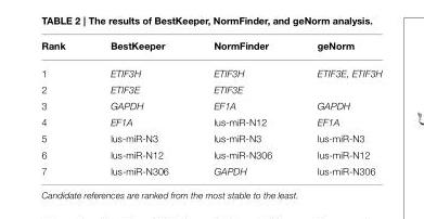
<table><thead><tr><td>Rank</td><td>BestKeeper</td><td>NormFinder</td><td>geNorm</td></tr></thead><tbody><tr><td>1</td><td>ETIF3H</td><td>ETIF3H</td><td>ETIF3E, ETIF3H</td></tr><tr><td>2</td><td>ETIF3E</td><td>ETIF3E</td><td></td></tr><tr><td>3</td><td>GAPDH</td><td>EF1A</td><td>GAPDH</td></tr><tr><td>4</td><td>EF1A</td><td>lus-miR-N12</td><td>EF1A</td></tr><tr><td>5</td><td>lus-miR-N3</td><td>lus-miR-N3</td><td>lus-miR-N3</td></tr><tr><td>6</td><td>lus-miR-N12</td><td>lus-miR-N306</td><td>lus-miR-N12</td></tr><tr><td>7</td><td>lus-miR-N306</td><td>GAPDH</td><td>lus-miR-N306</td></tr></tbody></table>